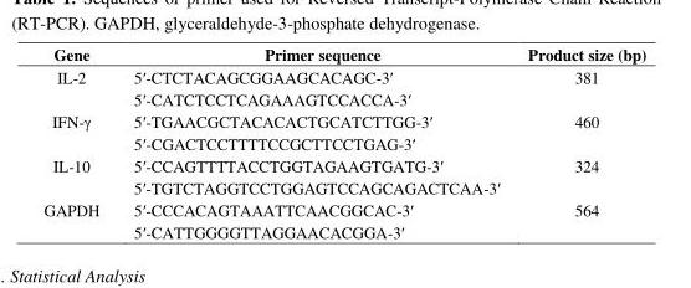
<table><thead><tr><td>Gene</td><td>Primer sequence</td><td>Product size (bp)</td></tr></thead><tbody><tr><td>IL-2</td><td>5′-CTCTACAGCGGAAGCACAGC-3′ 5′-CATCTCCTCAGAAAGTCCACCA-3′</td><td>381</td></tr><tr><td>IFN-γ</td><td>5′-TGAACGCTACACACTGCATCTTGG-3′ 5′-CGACTCCTTTTCCGCTTCCTGAG-3′</td><td>460</td></tr><tr><td>IL-10</td><td>5′-CCAGTTTTACCTGGTAGAAGTGATG-3′ 5′-TGTCTAGGTCCTGGAGTCCAGCAGACTCAA-3′</td><td>324</td></tr><tr><td>GAPDH</td><td>5′-CCCACAGTAAATTCAACGGCAC-3′ 5′-CATTGGGGTTAGGAACACGGA-3′</td><td>564</td></tr></tbody></table>